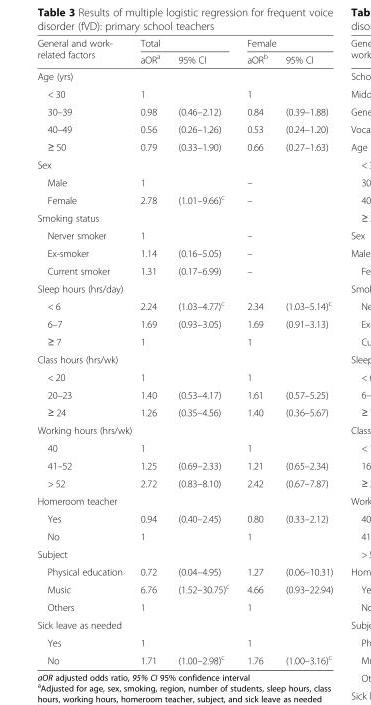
<table><thead><tr><td rowspan="2">General and work- related factors</td><td colspan="2">Total</td><td colspan="2">Female</td></tr><tr><td>aOR<sup>a</sup></td><td>95% CI</td><td>aOR<sup>b</sup></td><td>95% CI</td></tr></thead><tbody><tr><td colspan="5">Age (yrs)</td></tr><tr><td>&lt; 30</td><td>1</td><td></td><td>1</td><td></td></tr><tr><td>30–39</td><td>0.98</td><td>(0.46–2.12)</td><td>0.84</td><td>(0.39–1.88)</td></tr><tr><td>40–49</td><td>0.56</td><td>(0.26–1.26)</td><td>0.53</td><td>(0.24–1.20)</td></tr><tr><td>≥ 50</td><td>0.79</td><td>(0.33–1.90)</td><td>0.66</td><td>(0.27–1.63)</td></tr><tr><td colspan="5">Sex</td></tr><tr><td>Male</td><td>1</td><td></td><td>–</td><td></td></tr><tr><td>Female</td><td>2.78</td><td>(1.01–9.66)<sup>c</sup></td><td>–</td><td></td></tr><tr><td colspan="5">Smoking status</td></tr><tr><td>Nerver smoker</td><td>1</td><td></td><td>–</td><td></td></tr><tr><td>Ex-smoker</td><td>1.14</td><td>(0.16–5.05)</td><td>–</td><td></td></tr><tr><td>Current smoker</td><td>1.31</td><td>(0.17–6.99)</td><td>–</td><td></td></tr><tr><td colspan="5">Sleep hours (hrs/day)</td></tr><tr><td>&lt; 6</td><td>2.24</td><td>(1.03–4.77)<sup>c</sup></td><td>2.34</td><td>(1.03–5.14)<sup>c</sup></td></tr><tr><td>6–7</td><td>1.69</td><td>(0.93–3.05)</td><td>1.69</td><td>(0.91–3.13)</td></tr><tr><td>≥ 7</td><td>1</td><td></td><td>1</td><td></td></tr><tr><td colspan="5">Class hours (hrs/wk)</td></tr><tr><td>&lt; 20</td><td>1</td><td></td><td>1</td><td></td></tr><tr><td>20–23</td><td>1.40</td><td>(0.53–4.17)</td><td>1.61</td><td>(0.57–5.25)</td></tr><tr><td>≥ 24</td><td>1.26</td><td>(0.35–4.56)</td><td>1.40</td><td>(0.36–5.67)</td></tr><tr><td colspan="5">Working hours (hrs/wk)</td></tr><tr><td>40</td><td>1</td><td></td><td>1</td><td></td></tr><tr><td>41–52</td><td>1.25</td><td>(0.69–2.33)</td><td>1.21</td><td>(0.65–2.34)</td></tr><tr><td>&gt; 52</td><td>2.72</td><td>(0.83–8.10)</td><td>2.42</td><td>(0.67–7.87)</td></tr><tr><td colspan="5">Homeroom teacher</td></tr><tr><td>Yes</td><td>0.94</td><td>(0.40–2.45)</td><td>0.80</td><td>(0.33–2.12)</td></tr><tr><td>No</td><td>1</td><td></td><td>1</td><td></td></tr><tr><td colspan="5">Subject</td></tr><tr><td>Physical education</td><td>0.72</td><td>(0.04–4.95)</td><td>1.27</td><td>(0.06–10.31)</td></tr><tr><td>Music</td><td>6.76</td><td>(1.52–30.75)<sup>c</sup></td><td>4.66</td><td>(0.93–22.94)</td></tr><tr><td>Others</td><td>1</td><td></td><td>1</td><td></td></tr><tr><td colspan="5">Sick leave as needed</td></tr><tr><td>Yes</td><td>1</td><td></td><td>1</td><td></td></tr><tr><td>No</td><td>1.71</td><td>(1.00–2.98)<sup>c</sup></td><td>1.76</td><td>(1.00–3.16)<sup>c</sup></td></tr></tbody></table>